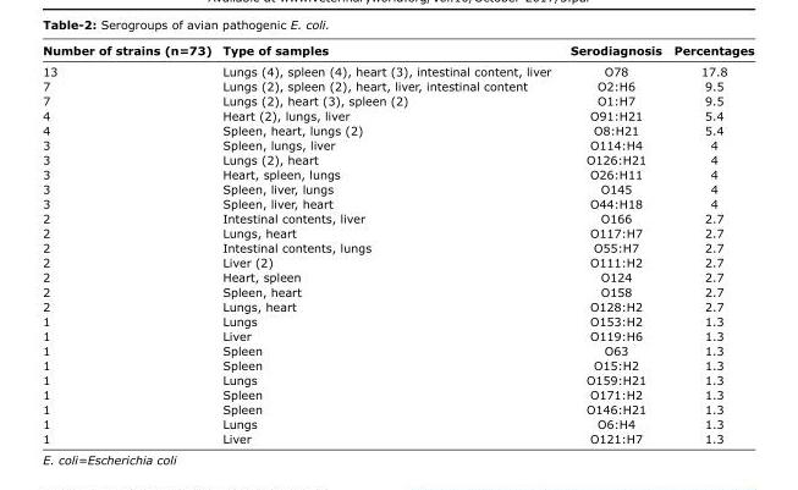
<table><thead><tr><td>Number of strains (n=73)</td><td>Type of samples</td><td>Serodiagnosis</td><td>Percentages</td></tr></thead><tbody><tr><td>13</td><td>Lungs (4), spleen (4), heart (3), intestinal content, liver</td><td>O78</td><td>17.8</td></tr><tr><td>7</td><td>Lungs (2), spleen (2), heart, liver, intestinal content</td><td>O2:H6</td><td>9.5</td></tr><tr><td>7</td><td>Lungs (2), heart (3), spleen (2)</td><td>O1:H7</td><td>9.5</td></tr><tr><td>4</td><td>Heart (2), lungs, liver</td><td>O91:H21</td><td>5.4</td></tr><tr><td>4</td><td>Spleen, heart, lungs (2)</td><td>O8:H21</td><td>5.4</td></tr><tr><td>3</td><td>Spleen, lungs, liver</td><td>O114:H4</td><td>4</td></tr><tr><td>3</td><td>Lungs (2), heart</td><td>O126:H21</td><td>4</td></tr><tr><td>3</td><td>Heart, spleen, lungs</td><td>O26:H11</td><td>4</td></tr><tr><td>3</td><td>Spleen, liver, lungs</td><td>O145</td><td>4</td></tr><tr><td>3</td><td>Spleen, liver, heart</td><td>O44:H18</td><td>4</td></tr><tr><td>2</td><td>Intestinal contents, liver</td><td>O166</td><td>2.7</td></tr><tr><td>2</td><td>Lungs, heart</td><td>O117:H7</td><td>2.7</td></tr><tr><td>2</td><td>Intestinal contents, lungs</td><td>O55:H7</td><td>2.7</td></tr><tr><td>2</td><td>Liver (2)</td><td>O111:H2</td><td>2.7</td></tr><tr><td>2</td><td>Heart, spleen</td><td>O124</td><td>2.7</td></tr><tr><td>2</td><td>Spleen, heart</td><td>O158</td><td>2.7</td></tr><tr><td>2</td><td>Lungs, heart</td><td>O128:H2</td><td>2.7</td></tr><tr><td>1</td><td>Lungs</td><td>O153:H2</td><td>1.3</td></tr><tr><td>1</td><td>Liver</td><td>O119:H6</td><td>1.3</td></tr><tr><td>1</td><td>Spleen</td><td>O63</td><td>1.3</td></tr><tr><td>1</td><td>Spleen</td><td>O15:H2</td><td>1.3</td></tr><tr><td>1</td><td>Lungs</td><td>O159:H21</td><td>1.3</td></tr><tr><td>1</td><td>Spleen</td><td>O171:H2</td><td>1.3</td></tr><tr><td>1</td><td>Spleen</td><td>O146:H21</td><td>1.3</td></tr><tr><td>1</td><td>Lungs</td><td>O6:H4</td><td>1.3</td></tr><tr><td>1</td><td>Liver</td><td>O121:H7</td><td>1.3</td></tr></tbody></table>